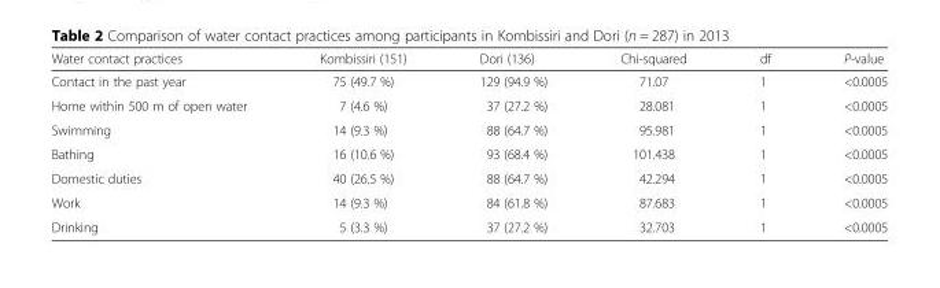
<table><thead><tr><td>Water contact practices</td><td>Kombissiri (151)</td><td>Dori (136)</td><td>Chi-squared</td><td>df</td><td>P-value</td></tr></thead><tbody><tr><td>Contact in the past year</td><td>75 (49.7 %)</td><td>129 (94.9 %)</td><td>71.07</td><td>1</td><td>&lt;0.0005</td></tr><tr><td>Home within 500 m of open water</td><td>7 (4.6 %)</td><td>37 (27.2 %)</td><td>28.081</td><td>1</td><td>&lt;0.0005</td></tr><tr><td>Swimming</td><td>14 (9.3 %)</td><td>88 (64.7 %)</td><td>95.981</td><td>1</td><td>&lt;0.0005</td></tr><tr><td>Bathing</td><td>16 (10.6 %)</td><td>93 (68.4 %)</td><td>101.438</td><td>1</td><td>&lt;0.0005</td></tr><tr><td>Domestic duties</td><td>40 (26.5 %)</td><td>88 (64.7 %)</td><td>42.294</td><td>1</td><td>&lt;0.0005</td></tr><tr><td>Work</td><td>14 (9.3 %)</td><td>84 (61.8 %)</td><td>87.683</td><td>1</td><td>&lt;0.0005</td></tr><tr><td>Drinking</td><td>5 (3.3 %)</td><td>37 (27.2 %)</td><td>32.703</td><td>1</td><td>&lt;0.0005</td></tr></tbody></table>